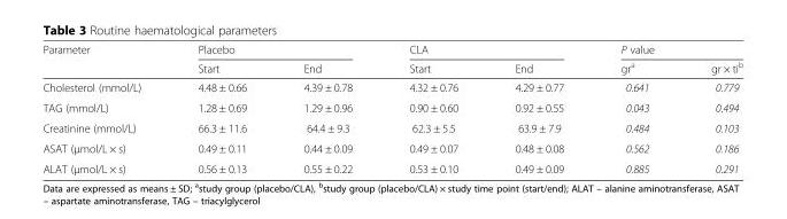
<table><thead><tr><td rowspan="2">Parameter</td><td rowspan="2">Placebo Start</td><td rowspan="2">End</td><td rowspan="2">CLA Start</td><td rowspan="2">End</td><td rowspan="2">P value gr<sup>a</sup></td><td rowspan="2">gr × ti<sup>b</sup></td></tr><tr></tr></thead><tbody><tr><td>Cholesterol (mmol/L)</td><td>4.48 ± 0.66</td><td>4.39 ± 0.78</td><td>4.32 ± 0.76</td><td>4.29 ± 0.77</td><td>0.641</td><td>0.779</td></tr><tr><td>TAG (mmol/L)</td><td>1.28 ± 0.69</td><td>1.29 ± 0.96</td><td>0.90 ± 0.60</td><td>0.92 ± 0.55</td><td>0.043</td><td>0.494</td></tr><tr><td>Creatinine (mmol/L)</td><td>66.3 ± 11.6</td><td>64.4 ± 9.3</td><td>62.3 ± 5.5</td><td>63.9 ± 7.9</td><td>0.484</td><td>0.103</td></tr><tr><td>ASAT (μmol/L × s)</td><td>0.49 ± 0.11</td><td>0.44 ± 0.09</td><td>0.49 ± 0.07</td><td>0.48 ± 0.08</td><td>0.562</td><td>0.186</td></tr><tr><td>ALAT (μmol/L × s)</td><td>0.56 ± 0.13</td><td>0.55 ± 0.22</td><td>0.53 ± 0.10</td><td>0.49 ± 0.09</td><td>0.885</td><td>0.291</td></tr></tbody></table>